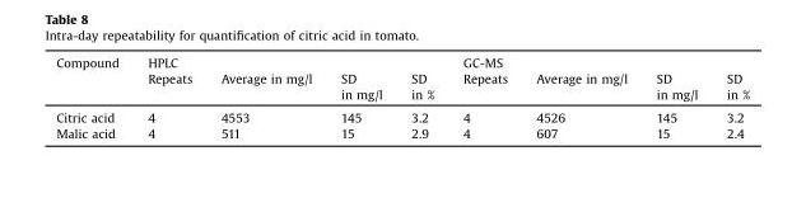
<table><thead><tr><td rowspan="2">Compound</td><td rowspan="2">HPLC Repeats</td><td rowspan="2">Average in mg/l</td><td rowspan="2">SD in mg/l</td><td rowspan="2">SD in %</td><td rowspan="2">GC-MS Repeats</td><td rowspan="2">Average in mg/l</td><td rowspan="2">SD in mg/l</td><td rowspan="2">SD in %</td></tr><tr></tr></thead><tbody><tr><td>Citric acid</td><td>4</td><td>4553</td><td>145</td><td>3.2</td><td>4</td><td>4526</td><td>145</td><td>3.2</td></tr><tr><td>Malic acid</td><td>4</td><td>511</td><td>15</td><td>2.9</td><td>4</td><td>607</td><td>15</td><td>2.4</td></tr></tbody></table>